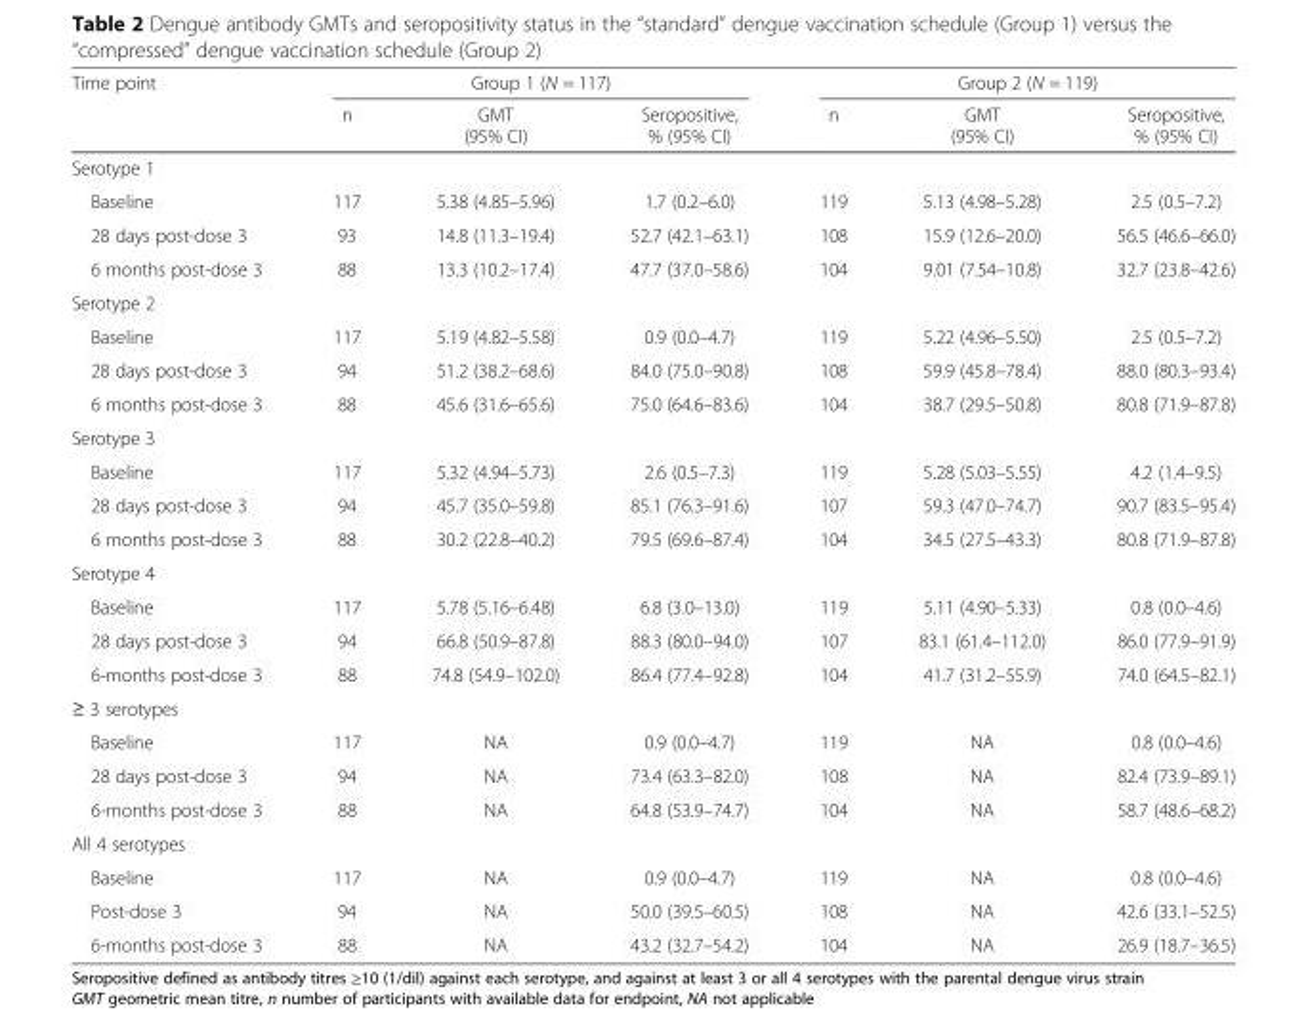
<table><thead><tr><td rowspan="2">Time point</td><td colspan="3">Group 1 (N = 117)</td><td colspan="3">Group 2 (N = 119)</td></tr><tr><td>n</td><td>GMT (95% CI)</td><td>Seropositive, % (95% CI)</td><td>n</td><td>GMT (95% CI)</td><td>Seropositive, % (95% CI)</td></tr></thead><tbody><tr><td colspan="7">Serotype 1</td></tr><tr><td>Baseline</td><td>117</td><td>5.38 (4.85–5.96)</td><td>1.7 (0.2–6.0)</td><td>119</td><td>5.13 (4.98–5.28)</td><td>2.5 (0.5–7.2)</td></tr><tr><td>28 days post-dose 3</td><td>93</td><td>14.8 (11.3–19.4)</td><td>52.7 (42.1–63.1)</td><td>108</td><td>15.9 (12.6–20.0)</td><td>56.5 (46.6–66.0)</td></tr><tr><td>6 months post-dose 3</td><td>88</td><td>13.3 (10.2–17.4)</td><td>47.7 (37.0–58.6)</td><td>104</td><td>9.01 (7.54–10.8)</td><td>32.7 (23.8–42.6)</td></tr><tr><td colspan="7">Serotype 2</td></tr><tr><td>Baseline</td><td>117</td><td>5.19 (4.82–5.58)</td><td>0.9 (0.0–4.7)</td><td>119</td><td>5.22 (4.96–5.50)</td><td>2.5 (0.5–7.2)</td></tr><tr><td>28 days post-dose 3</td><td>94</td><td>51.2 (38.2–68.6)</td><td>84.0 (75.0–90.8)</td><td>108</td><td>59.9 (45.8–78.4)</td><td>88.0 (80.3–93.4)</td></tr><tr><td>6 months post-dose 3</td><td>88</td><td>45.6 (31.6–65.6)</td><td>75.0 (64.6–83.6)</td><td>104</td><td>38.7 (29.5–50.8)</td><td>80.8 (71.9–87.8)</td></tr><tr><td colspan="7">Serotype 3</td></tr><tr><td>Baseline</td><td>117</td><td>5.32 (4.94–5.73)</td><td>2.6 (0.5–7.3)</td><td>119</td><td>5.28 (5.03–5.55)</td><td>4.2 (1.4–9.5)</td></tr><tr><td>28 days post-dose 3</td><td>94</td><td>45.7 (35.0–59.8)</td><td>85.1 (76.3–91.6)</td><td>107</td><td>59.3 (47.0–74.7)</td><td>90.7 (83.5–95.4)</td></tr><tr><td>6 months post-dose 3</td><td>88</td><td>30.2 (22.8–40.2)</td><td>79.5 (69.6–87.4)</td><td>104</td><td>34.5 (27.5–43.3)</td><td>80.8 (71.9–87.8)</td></tr><tr><td colspan="7">Serotype 4</td></tr><tr><td>Baseline</td><td>117</td><td>5.78 (5.16–6.48)</td><td>6.8 (3.0–13.0)</td><td>119</td><td>5.11 (4.90–5.33)</td><td>0.8 (0.0–4.6)</td></tr><tr><td>28 days post-dose 3</td><td>94</td><td>66.8 (50.9–87.8)</td><td>88.3 (80.0–94.0)</td><td>107</td><td>83.1 (61.4–112.0)</td><td>86.0 (77.9–91.9)</td></tr><tr><td>6-months post-dose 3</td><td>88</td><td>74.8 (54.9–102.0)</td><td>86.4 (77.4–92.8)</td><td>104</td><td>41.7 (31.2–55.9)</td><td>74.0 (64.5–82.1)</td></tr><tr><td colspan="7">≥ 3 serotypes</td></tr><tr><td>Baseline</td><td>117</td><td>NA</td><td>0.9 (0.0–4.7)</td><td>119</td><td>NA</td><td>0.8 (0.0–4.6)</td></tr><tr><td>28 days post-dose 3</td><td>94</td><td>NA</td><td>73.4 (63.3–82.0)</td><td>108</td><td>NA</td><td>82.4 (73.9–89.1)</td></tr><tr><td>6-months post-dose 3</td><td>88</td><td>NA</td><td>64.8 (53.9–74.7)</td><td>104</td><td>NA</td><td>58.7 (48.6–68.2)</td></tr><tr><td colspan="7">All 4 serotypes</td></tr><tr><td>Baseline</td><td>117</td><td>NA</td><td>0.9 (0.0–4.7)</td><td>119</td><td>NA</td><td>0.8 (0.0–4.6)</td></tr><tr><td>Post-dose 3</td><td>94</td><td>NA</td><td>50.0 (39.5–60.5)</td><td>108</td><td>NA</td><td>42.6 (33.1–52.5)</td></tr><tr><td>6-months post-dose 3</td><td>88</td><td>NA</td><td>43.2 (32.7–54.2)</td><td>104</td><td>NA</td><td>26.9 (18.7–36.5)</td></tr></tbody></table>